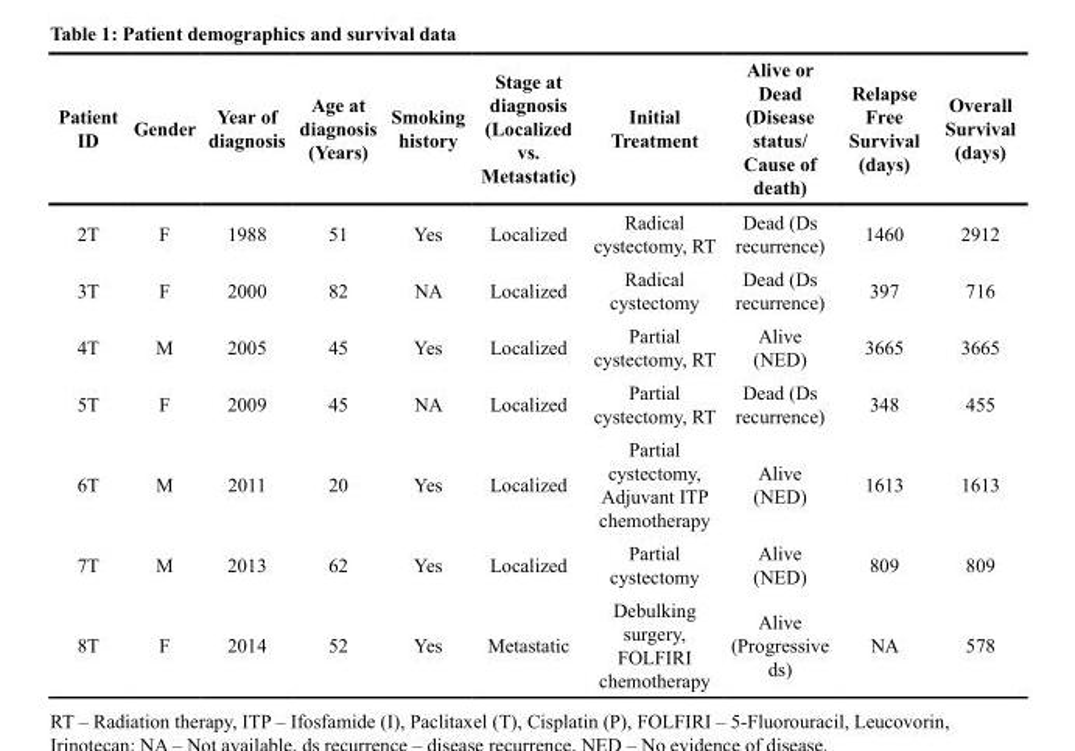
<table><thead><tr><td>Patient ID</td><td>Gender</td><td>Year of diagnosis</td><td>Age at diagnosis (Years)</td><td>Smoking history</td><td>Stage at diagnosis (Localized vs. Metastatic)</td><td>Initial Treatment</td><td>Alive or Dead (Disease status/ Cause of death)</td><td>Relapse Free Survival (days)</td><td>Overall Survival (days)</td></tr></thead><tbody><tr><td>2T</td><td>F</td><td>1988</td><td>51</td><td>Yes</td><td>Localized</td><td>Radical cystectomy, RT</td><td>Dead (Ds recurrence)</td><td>1460</td><td>2912</td></tr><tr><td>3T</td><td>F</td><td>2000</td><td>82</td><td>NA</td><td>Localized</td><td>Radical cystectomy</td><td>Dead (Ds recurrence)</td><td>397</td><td>716</td></tr><tr><td>4T</td><td>M</td><td>2005</td><td>45</td><td>Yes</td><td>Localized</td><td>Partial cystectomy, RT</td><td>Alive (NED)</td><td>3665</td><td>3665</td></tr><tr><td>5T</td><td>F</td><td>2009</td><td>45</td><td>NA</td><td>Localized</td><td>Partial cystectomy, RT</td><td>Dead (Ds recurrence)</td><td>348</td><td>455</td></tr><tr><td>6T</td><td>M</td><td>2011</td><td>20</td><td>Yes</td><td>Localized</td><td>Partial cystectomy, Adjuvant ITP chemotherapy</td><td>Alive (NED)</td><td>1613</td><td>1613</td></tr><tr><td>7T</td><td>M</td><td>2013</td><td>62</td><td>Yes</td><td>Localized</td><td>Partial cystectomy</td><td>Alive (NED)</td><td>809</td><td>809</td></tr><tr><td>8T</td><td>F</td><td>2014</td><td>52</td><td>Yes</td><td>Metastatic</td><td>Debulking surgery, FOLFIRI chemotherapy</td><td>Alive (Progressive ds)</td><td>NA</td><td>578</td></tr></tbody></table>